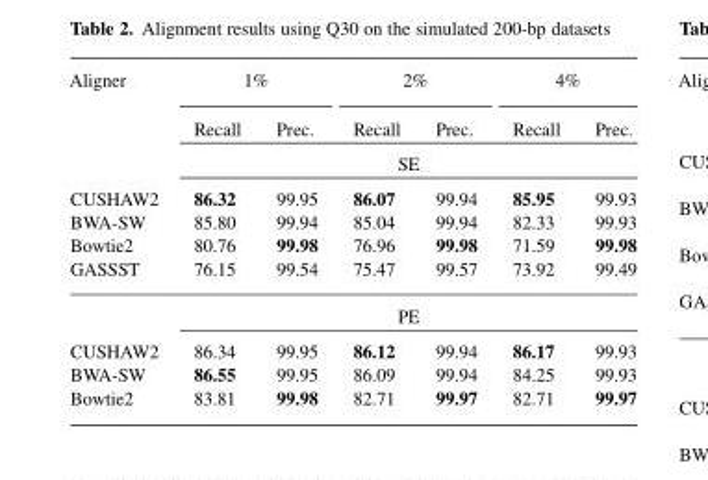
<table><thead><tr><td rowspan="2">Aligner</td><td colspan="2">1%</td><td colspan="2">2%</td><td colspan="2">4%</td></tr><tr><td>Recall</td><td>Prec.</td><td>Recall</td><td>Prec.</td><td>Recall</td><td>Prec.</td></tr></thead><tbody><tr><td></td><td colspan="6">SE</td></tr><tr><td>CUSHAW2</td><td>86.32</td><td>99.95</td><td>86.07</td><td>99.94</td><td>85.95</td><td>99.93</td></tr><tr><td>BWA-SW</td><td>85.80</td><td>99.94</td><td>85.04</td><td>99.94</td><td>82.33</td><td>99.93</td></tr><tr><td>Bowtie2</td><td>80.76</td><td>99.98</td><td>76.96</td><td>99.98</td><td>71.59</td><td>99.98</td></tr><tr><td rowspan="2">GASSST</td><td>76.15</td><td>99.54</td><td>75.47</td><td>99.57</td><td>73.92</td><td>99.49</td></tr><tr><td colspan="6">PE</td></tr><tr><td>CUSHAW2</td><td>86.34</td><td>99.95</td><td>86.12</td><td>99.94</td><td>86.17</td><td>99.93</td></tr><tr><td>BWA-SW</td><td>86.55</td><td>99.95</td><td>86.09</td><td>99.94</td><td>84.25</td><td>99.93</td></tr><tr><td>Bowtie2</td><td>83.81</td><td>99.98</td><td>82.71</td><td>99.97</td><td>82.71</td><td>99.97</td></tr></tbody></table>